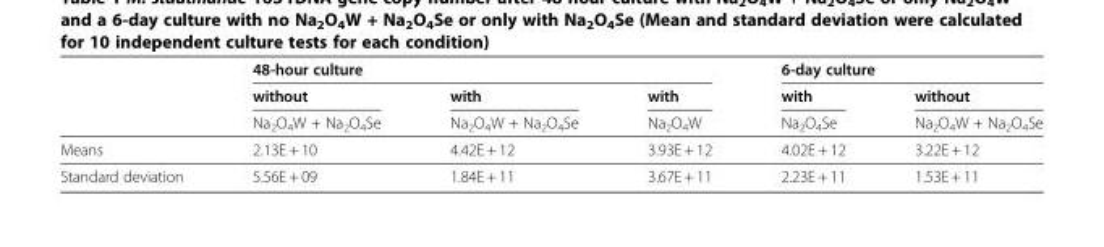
<table><thead><tr><td rowspan="3"></td><td colspan="3">48-hour culture</td><td colspan="2">6-day culture</td></tr><tr><td rowspan="2">without Na<sub>2</sub>O<sub>4</sub>W + Na<sub>2</sub>O<sub>4</sub>Se</td><td rowspan="2">with Na<sub>2</sub>O<sub>4</sub>W + Na<sub>2</sub>O<sub>4</sub>Se</td><td rowspan="2">with Na<sub>2</sub>O<sub>4</sub>W</td><td rowspan="2">with Na<sub>2</sub>O<sub>4</sub>Se</td><td rowspan="2">without Na<sub>2</sub>O<sub>4</sub>W + Na<sub>2</sub>O<sub>4</sub>Se</td></tr><tr></tr></thead><tbody><tr><td>Means</td><td>2.13E + 10</td><td>4.42E + 12</td><td>3.93E + 12</td><td>4.02E + 12</td><td>3.22E + 12</td></tr><tr><td>Standard deviation</td><td>5.56E + 09</td><td>1.84E + 11</td><td>3.67E + 11</td><td>2.23E + 11</td><td>1.53E + 11</td></tr></tbody></table>